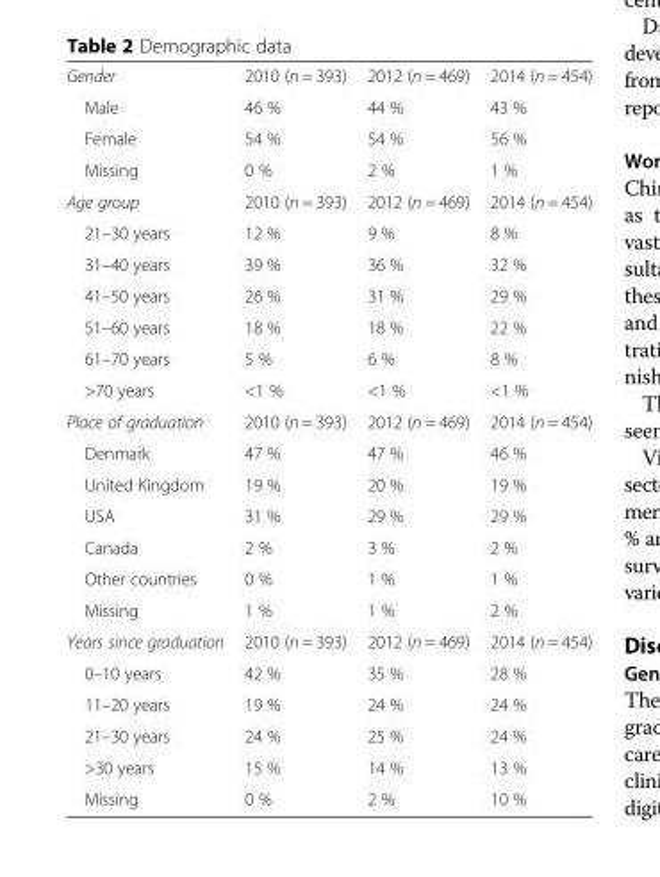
<table><tbody><tr><td>Gender</td><td>2010 (n = 393)</td><td>2012 (n = 469)</td><td>2014 (n = 454)</td></tr><tr><td>Male</td><td>46 %</td><td>44 %</td><td>43 %</td></tr><tr><td>Female</td><td>54 %</td><td>54 %</td><td>56 %</td></tr><tr><td>Missing</td><td>0 %</td><td>2 %</td><td>1 %</td></tr><tr><td>Age group</td><td>2010 (n = 393)</td><td>2012 (n = 469)</td><td>2014 (n = 454)</td></tr><tr><td>21–30 years</td><td>12 %</td><td>9 %</td><td>8 %</td></tr><tr><td>31–40 years</td><td>39 %</td><td>36 %</td><td>32 %</td></tr><tr><td>41–50 years</td><td>26 %</td><td>31 %</td><td>29 %</td></tr><tr><td>51–60 years</td><td>18 %</td><td>18 %</td><td>22 %</td></tr><tr><td>61–70 years</td><td>5 %</td><td>6 %</td><td>8 %</td></tr><tr><td>&gt;70 years</td><td>&lt;1 %</td><td>&lt;1 %</td><td>&lt;1 %</td></tr><tr><td>Place of graduation</td><td>2010 (n = 393)</td><td>2012 (n = 469)</td><td>2014 (n = 454)</td></tr><tr><td>Denmark</td><td>47 %</td><td>47 %</td><td>46 %</td></tr><tr><td>United Kingdom</td><td>19 %</td><td>20 %</td><td>19 %</td></tr><tr><td>USA</td><td>31 %</td><td>29 %</td><td>29 %</td></tr><tr><td>Canada</td><td>2 %</td><td>3 %</td><td>2 %</td></tr><tr><td>Other countries</td><td>0 %</td><td>1 %</td><td>1 %</td></tr><tr><td>Missing</td><td>1 %</td><td>1 %</td><td>2 %</td></tr><tr><td>Years since graduation</td><td>2010 (n = 393)</td><td>2012 (n = 469)</td><td>2014 (n = 454)</td></tr><tr><td>0–10 years</td><td>42 %</td><td>35 %</td><td>28 %</td></tr><tr><td>11–20 years</td><td>19 %</td><td>24 %</td><td>24 %</td></tr><tr><td>21–30 years</td><td>24 %</td><td>25 %</td><td>24 %</td></tr><tr><td>&gt;30 years</td><td>15 %</td><td>14 %</td><td>13 %</td></tr><tr><td>Missing</td><td>0 %</td><td>2 %</td><td>10 %</td></tr></tbody></table>